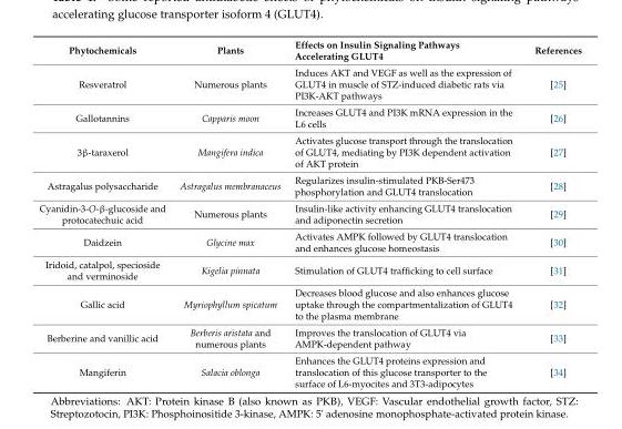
<table><thead><tr><td>Phytochemicals</td><td>Plants</td><td>Effects on Insulin Signaling Pathways Accelerating GLUT4</td><td>References</td></tr></thead><tbody><tr><td>Resveratrol</td><td>Numerous plants</td><td>Induces AKT and VEGF as well as the expression of GLUT4 in muscle of STZ-induced diabetic rats via PI3K-AKT pathways</td><td>[25]</td></tr><tr><td>Gallotannins</td><td>Capparis moon</td><td>Increases GLUT4 and PI3K mRNA expression in the L6 cells</td><td>[26]</td></tr><tr><td>3β-taraxerol</td><td>Mangifera indica</td><td>Activates glucose transport through the translocation of GLUT4, mediating by PI3K dependent activation of AKT protein</td><td>[27]</td></tr><tr><td>Astragalus polysaccharide</td><td>Astragalus membranaceus</td><td>Regularizes insulin-stimulated PKB-Ser473 phosphorylation and GLUT4 translocation</td><td>[28]</td></tr><tr><td>Cyanidin-3-O-β-glucoside and protocatechuic acid</td><td>Numerous plants</td><td>Insulin-like activity enhancing GLUT4 translocation and adiponectin secretion</td><td>[29]</td></tr><tr><td>Daidzein</td><td>Glycine max</td><td>Activates AMPK followed by GLUT4 translocation and enhances glucose homeostasis</td><td>[30]</td></tr><tr><td>Iridoid, catalpol, specioside and verminoside</td><td>Kigelia pinnata</td><td>Stimulation of GLUT4 trafficking to cell surface</td><td>[31]</td></tr><tr><td>Gallic acid</td><td>Myriophyllum spicatum</td><td>Decreases blood glucose and also enhances glucose uptake through the compartmentalization of GLUT4 to the plasma membrane</td><td>[32]</td></tr><tr><td>Berberine and vanillic acid</td><td>Berberis aristata and numerous plants</td><td>Improves the translocation of GLUT4 via AMPK-dependent pathway</td><td>[33]</td></tr><tr><td>Mangiferin</td><td>Salacia oblonga</td><td>Enhances the GLUT4 proteins expression and translocation of this glucose transporter to the surface of L6-myocites and 3T3-adipocytes</td><td>[34]</td></tr></tbody></table>